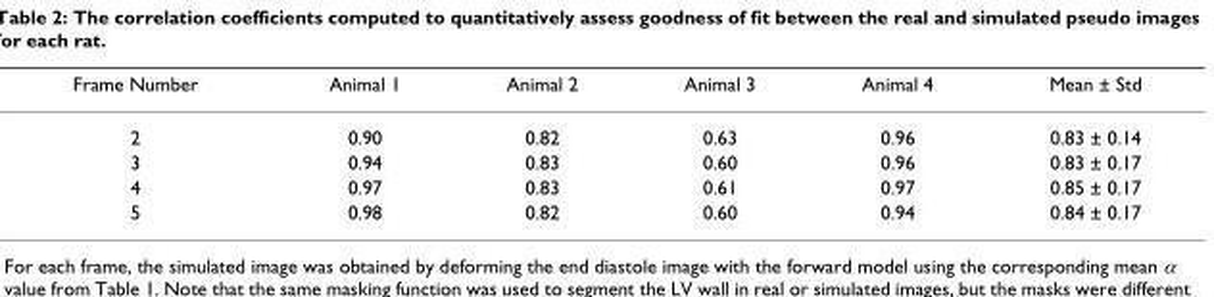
<table><thead><tr><td>Frame Number</td><td>Animal 1</td><td>Animal 2</td><td>Animal 3</td><td>Animal 4</td><td>Mean ± Std</td></tr></thead><tbody><tr><td>2</td><td>0.90</td><td>0.82</td><td>0.63</td><td>0.96</td><td>0.83 ± 0.14</td></tr><tr><td>3</td><td>0.94</td><td>0.83</td><td>0.60</td><td>0.96</td><td>0.83 ± 0.17</td></tr><tr><td>4</td><td>0.97</td><td>0.83</td><td>0.61</td><td>0.97</td><td>0.85 ± 0.17</td></tr><tr><td>5</td><td>0.98</td><td>0.82</td><td>0.60</td><td>0.94</td><td>0.84 ± 0.17</td></tr></tbody></table>